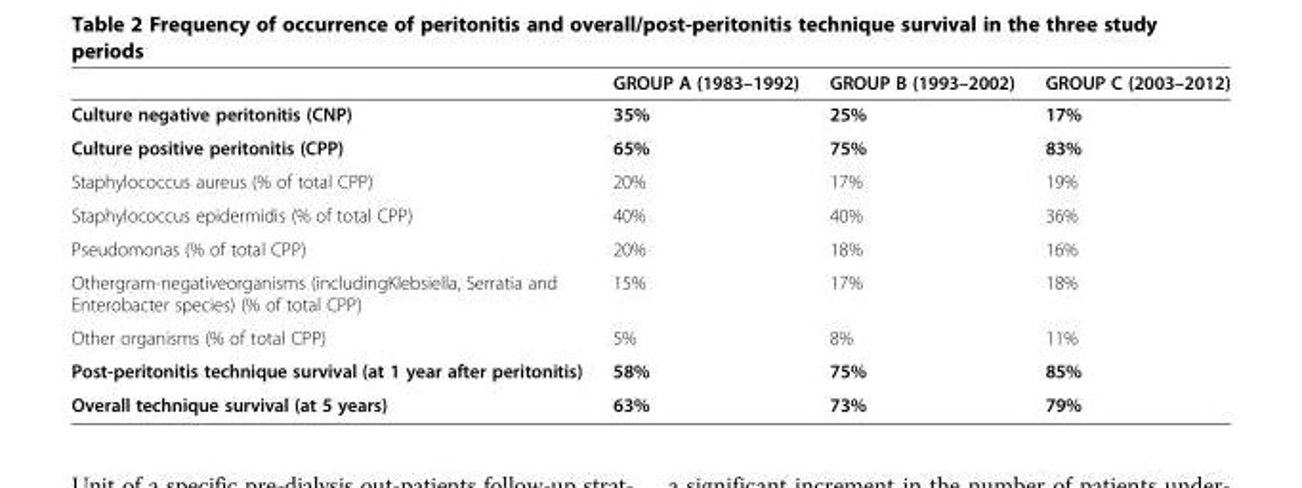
<table><thead><tr><td></td><td>GROUP A (1983–1992)</td><td>GROUP B (1993–2002)</td><td>GROUP C (2003–2012)</td></tr></thead><tbody><tr><td>Culture negative peritonitis (CNP)</td><td>35%</td><td>25%</td><td>17%</td></tr><tr><td>Culture positive peritonitis (CPP)</td><td>65%</td><td>75%</td><td>83%</td></tr><tr><td>Staphylococcus aureus (% of total CPP)</td><td>20%</td><td>17%</td><td>19%</td></tr><tr><td>Staphylococcus epidermidis (% of total CPP)</td><td>40%</td><td>40%</td><td>36%</td></tr><tr><td>Pseudomonas (% of total CPP)</td><td>20%</td><td>18%</td><td>16%</td></tr><tr><td>Othergram-negativeorganisms (includingKlebsiella, Serratia and Enterobacter species) (% of total CPP)</td><td>15%</td><td>17%</td><td>18%</td></tr><tr><td>Other organisms (% of total CPP)</td><td>5%</td><td>8%</td><td>11%</td></tr><tr><td>Post-peritonitis technique survival (at 1 year after peritonitis)</td><td>58%</td><td>75%</td><td>85%</td></tr><tr><td>Overall technique survival (at 5 years)</td><td>63%</td><td>73%</td><td>79%</td></tr></tbody></table>